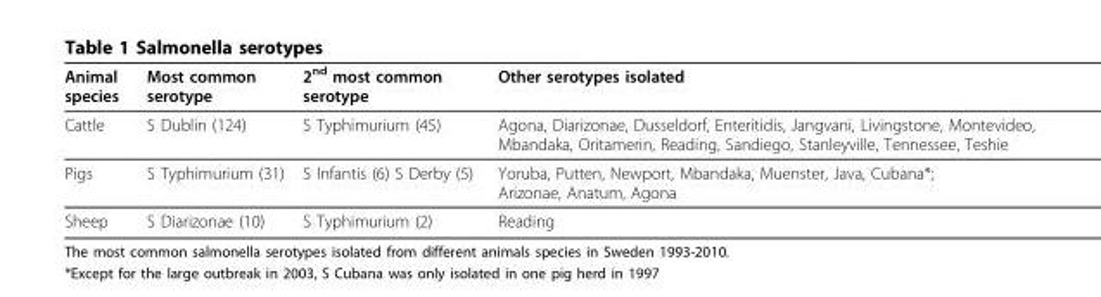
<table><thead><tr><td>Animal species</td><td>Most common serotype</td><td>2<sup>nd</sup> most common serotype</td><td>Other serotypes isolated</td></tr></thead><tbody><tr><td>Cattle</td><td>S Dublin (124)</td><td>S Typhimurium (45)</td><td>Agona, Diarizonae, Dusseldorf, Enteritidis, Jangvani, Livingstone, Montevideo, Mbandaka, Oritamerin, Reading, Sandiego, Stanleyville, Tennessee, Teshie</td></tr><tr><td>Pigs</td><td>S Typhimurium (31)</td><td>S Infantis (6) S Derby (5)</td><td>Yoruba, Putten, Newport, Mbandaka, Muenster, Java, Cubana*; Arizonae, Anatum, Agona</td></tr><tr><td>Sheep</td><td>S Diarizonae (10)</td><td>S Typhimurium (2)</td><td>Reading</td></tr></tbody></table>